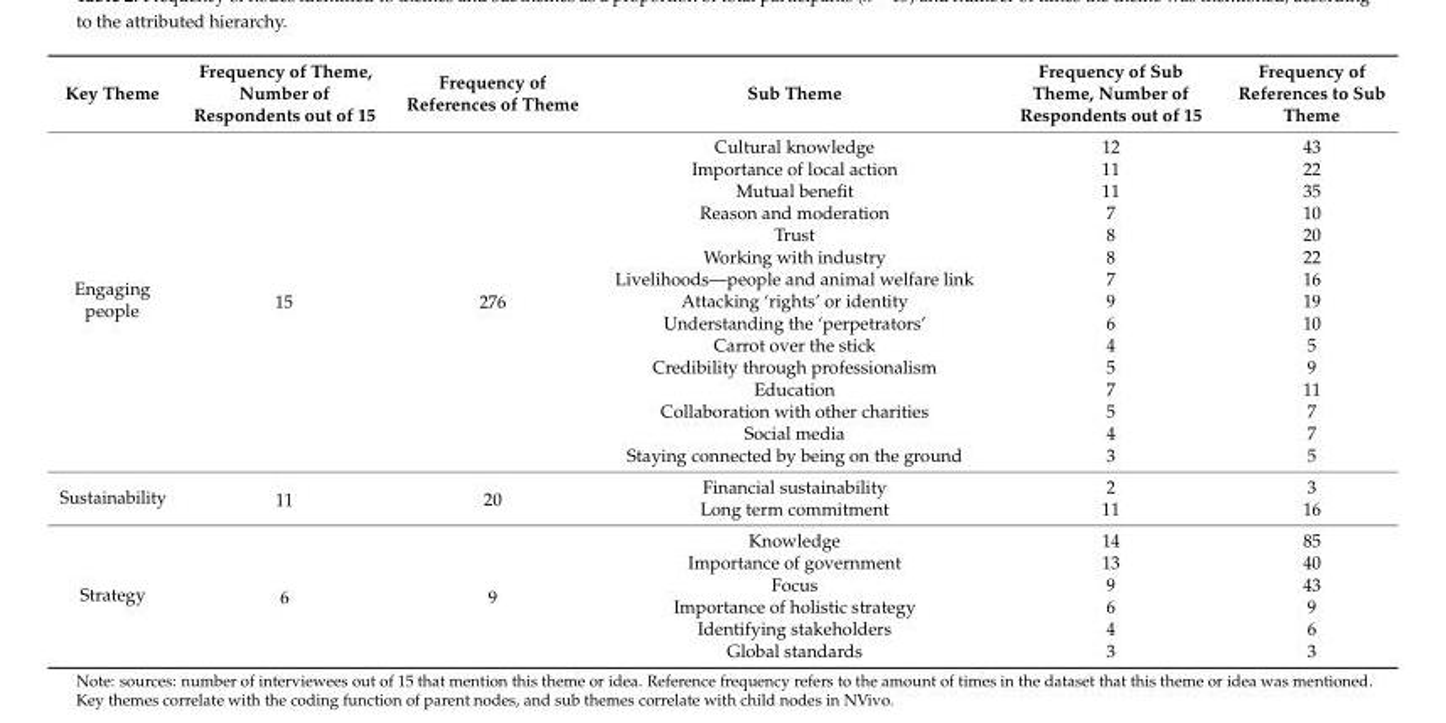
<table><thead><tr><td>Key Theme</td><td>Frequency of Theme, Number of Respondents out of 15</td><td>Frequency of References of Theme</td><td>Sub Theme</td><td>Frequency of Sub Theme, Number of Respondents out of 15</td><td>Frequency of References to Sub Theme</td></tr></thead><tbody><tr><td rowspan="15">Engaging people</td><td rowspan="15">15</td><td rowspan="15">276</td><td>Cultural knowledge</td><td>12</td><td>43</td></tr><tr><td>Importance of local action</td><td>11</td><td>22</td></tr><tr><td>Mutual benefit</td><td>11</td><td>35</td></tr><tr><td>Reason and moderation</td><td>7</td><td>10</td></tr><tr><td>Trust</td><td>8</td><td>20</td></tr><tr><td>Working with industry</td><td>8</td><td>22</td></tr><tr><td>Livelihoods—people and animal welfare link</td><td>7</td><td>16</td></tr><tr><td>Attacking ‘rights’ or identity</td><td>9</td><td>19</td></tr><tr><td>Understanding the ‘perpetrators’</td><td>6</td><td>10</td></tr><tr><td>Carrot over the stick</td><td>4</td><td>5</td></tr><tr><td>Credibility through professionalism</td><td>5</td><td>9</td></tr><tr><td>Education</td><td>7</td><td>11</td></tr><tr><td>Collaboration with other charities</td><td>5</td><td>7</td></tr><tr><td>Social media</td><td>4</td><td>7</td></tr><tr><td>Staying connected by being on the ground</td><td>3</td><td>5</td></tr><tr><td rowspan="2">Sustainability</td><td rowspan="2">11</td><td rowspan="2">20</td><td>Financial sustainability</td><td>2</td><td>3</td></tr><tr><td>Long term commitment</td><td>11</td><td>16</td></tr><tr><td rowspan="6">Strategy</td><td rowspan="6">6</td><td rowspan="6">9</td><td>Knowledge</td><td>14</td><td>85</td></tr><tr><td>Importance of government</td><td>13</td><td>40</td></tr><tr><td>Focus</td><td>9</td><td>43</td></tr><tr><td>Importance of holistic strategy</td><td>6</td><td>9</td></tr><tr><td>Identifying stakeholders</td><td>4</td><td>6</td></tr><tr><td>Global standards</td><td>3</td><td>3</td></tr></tbody></table>